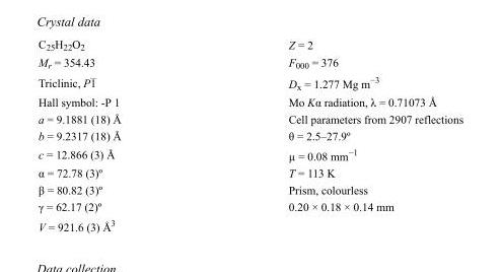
<table><tbody><tr><td>C<sub>25</sub>H<sub>22</sub>O<sub>2</sub></td><td>Z = 2</td></tr><tr><td>M<sub>r</sub> = 354.43</td><td>F000 = 376</td></tr><tr><td>Triclinic, P1</td><td>D<sub>x</sub> = 1.277 Mg m<sup>−3</sup></td></tr><tr><td>Hall symbol: -P 1</td><td>Mo Kα radiation, λ = 0.71073 Å</td></tr><tr><td>a = 9.1881 (18) Å</td><td>Cell parameters from 2907 reflections</td></tr><tr><td>b = 9.2317 (18) Å</td><td>θ = 2.5–27.9º</td></tr><tr><td>c = 12.866 (3) Å</td><td>µ = 0.08 mm<sup>−1</sup></td></tr><tr><td>α = 72.78 (3)º</td><td>T = 113 K</td></tr><tr><td>β = 80.82 (3)º</td><td>Prism, colourless</td></tr><tr><td>γ = 62.17 (2)º</td><td>0.20 × 0.18 × 0.14 mm</td></tr><tr><td>V = 921.6 (3) Å<sup>3</sup></td><td></td></tr></tbody></table>